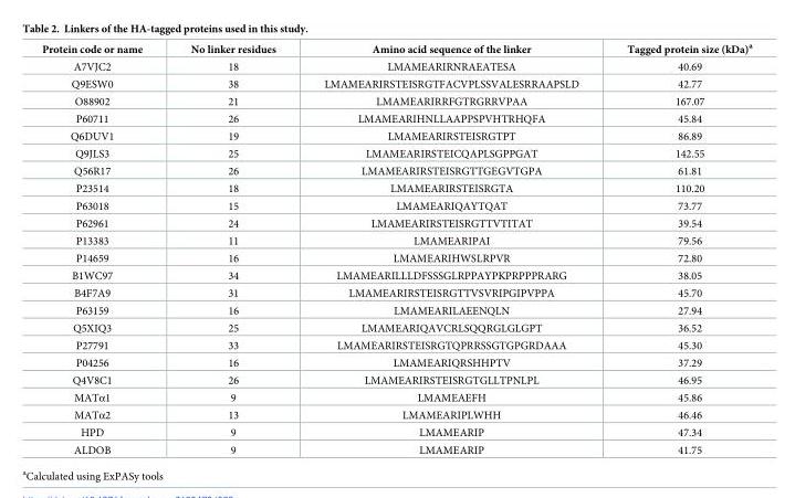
<table><thead><tr><td>Protein code or name</td><td>No linker residues</td><td>Amino acid sequence of the linker</td><td>Tagged protein size (kDa)<sup>a</sup></td></tr></thead><tbody><tr><td>A7VJC2</td><td>18</td><td>LMAMEARIRNRAEATESA</td><td>40.69</td></tr><tr><td>Q9ESW0</td><td>38</td><td>LMAMEARIRSTEISRGTFACVPLSSVALESRRAAPSLD</td><td>42.77</td></tr><tr><td>O88902</td><td>21</td><td>LMAMEARIRRFGTRGRRVPAA</td><td>167.07</td></tr><tr><td>P60711</td><td>26</td><td>LMAMEARIHNLLAAPPSPVHTRHQFA</td><td>45.84</td></tr><tr><td>Q6DUV1</td><td>19</td><td>LMAMEARIRSTEISRGTPT</td><td>86.89</td></tr><tr><td>Q9JLS3</td><td>25</td><td>LMAMEARIRSTEICQAPLSGPPGAT</td><td>142.55</td></tr><tr><td>Q56R17</td><td>26</td><td>LMAMEARIRSTEISRGTTGEGVTGPA</td><td>61.81</td></tr><tr><td>P23514</td><td>18</td><td>LMAMEARIRSTEISRGTA</td><td>110.20</td></tr><tr><td>P63018</td><td>15</td><td>LMAMEARIQAYTQAT</td><td>73.77</td></tr><tr><td>P62961</td><td>24</td><td>LMAMEARIRSTEISRGTTVTITAT</td><td>39.54</td></tr><tr><td>P13383</td><td>11</td><td>LMAMEARIPAI</td><td>79.56</td></tr><tr><td>P14659</td><td>16</td><td>LMAMEARIHWSLRPVR</td><td>72.80</td></tr><tr><td>B1WC97</td><td>34</td><td>LMAMEARILLLDFSSSGLRPPAYPKPRPPPRARG</td><td>38.05</td></tr><tr><td>B4F7A9</td><td>31</td><td>LMAMEARIRSTEISRGTTVSVRIPGIPVPPA</td><td>45.70</td></tr><tr><td>P63159</td><td>16</td><td>LMAMEARILAEENQLN</td><td>27.94</td></tr><tr><td>Q5XIQ3</td><td>25</td><td>LMAMEARIQAVCRLSQQRGLGLGPT</td><td>36.52</td></tr><tr><td>P27791</td><td>33</td><td>LMAMEARIRSTEISRGTQPRRSSGTGPGRDAAA</td><td>45.30</td></tr><tr><td>P04256</td><td>16</td><td>LMAMEARIQRSHHPTV</td><td>37.29</td></tr><tr><td>Q4V8C1</td><td>26</td><td>LMAMEARIRSTEISRGTGLLTPNLPL</td><td>46.95</td></tr><tr><td>MATα1</td><td>9</td><td>LMAMEAEFH</td><td>45.86</td></tr><tr><td>MATα2</td><td>13</td><td>LMAMEARIPLWHH</td><td>46.46</td></tr><tr><td>HPD</td><td>9</td><td>LMAMEARIP</td><td>47.34</td></tr><tr><td>ALDOB</td><td>9</td><td>LMAMEARIP</td><td>41.75</td></tr></tbody></table>